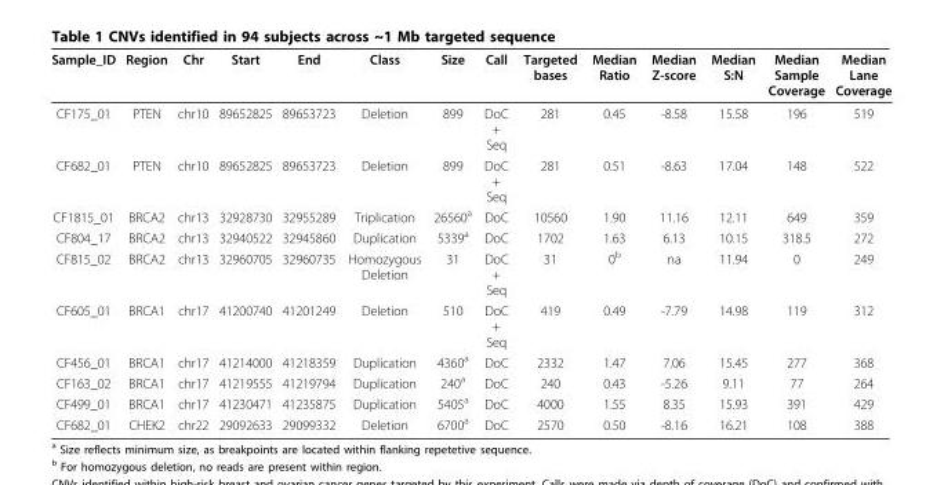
<table><thead><tr><td>Sample_ID</td><td>Region</td><td>Chr</td><td>Start</td><td>End</td><td>Class</td><td>Size</td><td>Call</td><td>Targeted bases</td><td>Median Ratio</td><td>Median Z-score</td><td>Median S:N</td><td>Median Sample Coverage</td><td>Median Lane Coverage</td></tr></thead><tbody><tr><td>CF175_01</td><td>PTEN</td><td>chr10</td><td>89652825</td><td>89653723</td><td>Deletion</td><td>899</td><td>DoC + Seq</td><td>281</td><td>0.45</td><td>-8.58</td><td>15.58</td><td>196</td><td>519</td></tr><tr><td>CF682_01</td><td>PTEN</td><td>chr10</td><td>89652825</td><td>89653723</td><td>Deletion</td><td>899</td><td>DoC + Seq</td><td>281</td><td>0.51</td><td>-8.63</td><td>17.04</td><td>148</td><td>522</td></tr><tr><td>CF1815_01</td><td>BRCA2</td><td>chr13</td><td>32928730</td><td>32955289</td><td>Triplication</td><td>26560<sup>a</sup></td><td>DoC</td><td>10560</td><td>1.90</td><td>11.16</td><td>12.11</td><td>649</td><td>359</td></tr><tr><td>CF804_17</td><td>BRCA2</td><td>chr13</td><td>32940522</td><td>32945860</td><td>Duplication</td><td>5339<sup>a</sup></td><td>DoC</td><td>1702</td><td>1.63</td><td>6.13</td><td>10.15</td><td>318.5</td><td>272</td></tr><tr><td>CF815_02</td><td>BRCA2</td><td>chr13</td><td>32960705</td><td>32960735</td><td>Homozygous Deletion</td><td>31</td><td>DoC + Seq</td><td>31</td><td>0<sup>b</sup></td><td>na</td><td>11.94</td><td>0</td><td>249</td></tr><tr><td>CF605_01</td><td>BRCA1</td><td>chr17</td><td>41200740</td><td>41201249</td><td>Deletion</td><td>510</td><td>DoC + Seq</td><td>419</td><td>0.49</td><td>-7.79</td><td>14.98</td><td>119</td><td>312</td></tr><tr><td>CF456_01</td><td>BRCA1</td><td>chr17</td><td>41214000</td><td>41218359</td><td>Duplication</td><td>4360<sup>a</sup></td><td>DoC</td><td>2332</td><td>1.47</td><td>7.06</td><td>15.45</td><td>277</td><td>368</td></tr><tr><td>CF163_02</td><td>BRCA1</td><td>chr17</td><td>41219555</td><td>41219794</td><td>Duplication</td><td>240<sup>a</sup></td><td>DoC</td><td>240</td><td>0.43</td><td>-5.26</td><td>9.11</td><td>77</td><td>264</td></tr><tr><td>CF499_01</td><td>BRCA1</td><td>chr17</td><td>41230471</td><td>41235875</td><td>Duplication</td><td>5405<sup>a</sup></td><td>DoC</td><td>4000</td><td>1.55</td><td>8.35</td><td>15.93</td><td>391</td><td>429</td></tr><tr><td>CF682_01</td><td>CHEK2</td><td>chr22</td><td>29092633</td><td>29099332</td><td>Deletion</td><td>6700<sup>a</sup></td><td>DoC</td><td>2570</td><td>0.50</td><td>-8.16</td><td>16.21</td><td>108</td><td>388</td></tr></tbody></table>